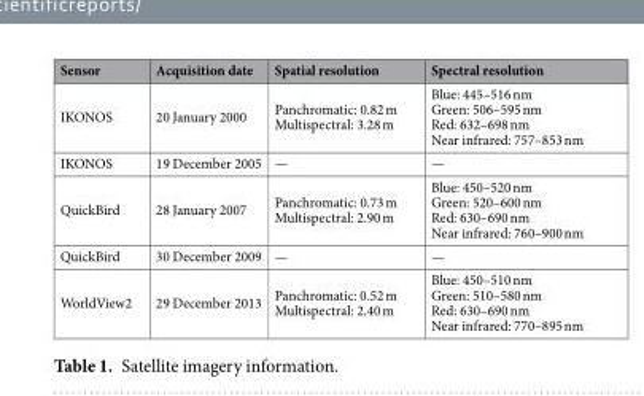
<table><thead><tr><td>Sensor</td><td>Acquisition date</td><td>Spatial resolution</td><td>Spectral resolution</td></tr></thead><tbody><tr><td>IKONOS</td><td>20 January 2000</td><td>Panchromatic: 0.82 m Multispectral: 3.28 m</td><td>Blue: 445–516 nm Green: 506–595 nm Red: 632–698 nm Near infrared: 757–853 nm</td></tr><tr><td>IKONOS</td><td>19 December 2005</td><td>—</td><td>—</td></tr><tr><td>QuickBird</td><td>28 January 2007</td><td>Panchromatic: 0.73 m Multispectral: 2.90 m</td><td>Blue: 450–520 nm Green: 520–600 nm Red: 630–690 nm Near infrared: 760–900 nm</td></tr><tr><td>QuickBird</td><td>30 December 2009</td><td>—</td><td>—</td></tr><tr><td>WorldView2</td><td>29 December 2013</td><td>Panchromatic: 0.52 m Multispectral: 2.40 m</td><td>Blue: 450–510 nm Green: 510–580 nm Red: 630–690 nm Near infrared: 770–895 nm</td></tr></tbody></table>